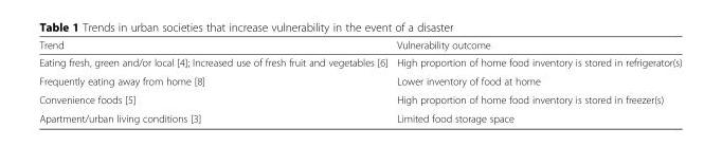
<table><thead><tr><td>Trend</td><td>Vulnerability outcome</td></tr></thead><tbody><tr><td>Eating fresh, green and/or local [4]; Increased use of fresh fruit and vegetables [6]</td><td>High proportion of home food inventory is stored in refrigerator(s)</td></tr><tr><td>Frequently eating away from home [8]</td><td>Lower inventory of food at home</td></tr><tr><td>Convenience foods [5]</td><td>High proportion of home food inventory is stored in freezer(s)</td></tr><tr><td>Apartment/urban living conditions [3]</td><td>Limited food storage space</td></tr></tbody></table>